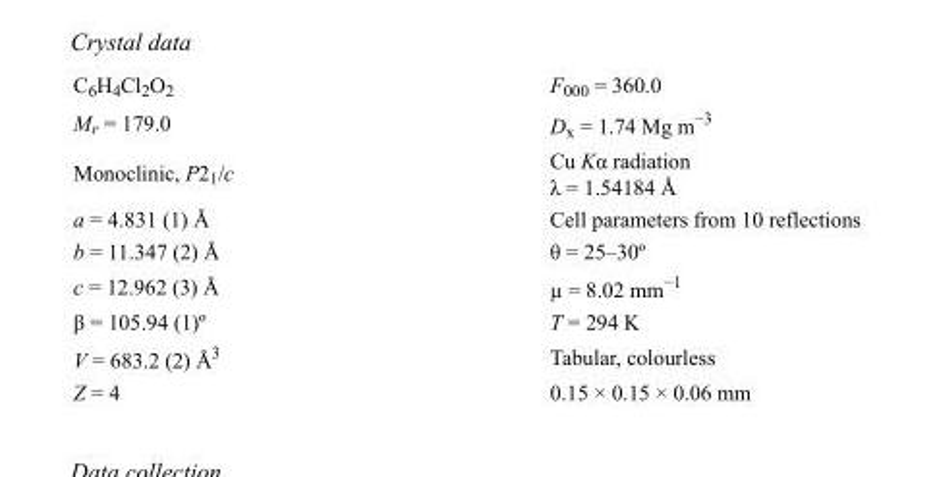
<table><tbody><tr><td>C<sub>6</sub>H<sub>4</sub>Cl<sub>2</sub>O<sub>2</sub></td><td>F000 = 360.0</td></tr><tr><td>M<sub>r</sub> = 179.0</td><td>D<sub>x</sub> = 1.74 Mg m<sup>−3</sup></td></tr><tr><td>Monoclinic, P2<sub>1</sub>/c</td><td>Cu Kα radiation λ = 1.54184 Å</td></tr><tr><td>a = 4.831 (1) Å</td><td>Cell parameters from 10 reflections</td></tr><tr><td>b = 11.347 (2) Å</td><td>θ = 25–30º</td></tr><tr><td>c = 12.962 (3) Å</td><td>µ = 8.02 mm<sup>−1</sup></td></tr><tr><td>β = 105.94 (1)º</td><td>T = 294 K</td></tr><tr><td>V = 683.2 (2) Å<sup>3</sup></td><td>Tabular, colourless</td></tr><tr><td>Z = 4</td><td>0.15 × 0.15 × 0.06 mm</td></tr></tbody></table>